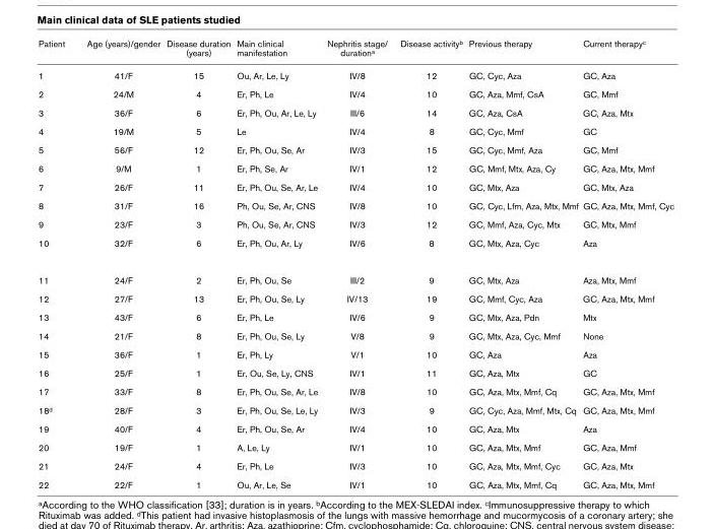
<table><thead><tr><td>Patient</td><td>Age (years)/gender</td><td>Disease duration (years)</td><td>Main clinical manifestation</td><td>Nephritis stage/ durationa</td><td>Disease activityb</td><td>Previous therapy</td><td>Current therapyc</td></tr></thead><tbody><tr><td>1</td><td>41/F</td><td>15</td><td>Ou, Ar, Le, Ly</td><td>IV/8</td><td>12</td><td>GC, Cyc, Aza</td><td>GC, Aza</td></tr><tr><td>2</td><td>24/M</td><td>4</td><td>Er, Ph, Le</td><td>IV/4</td><td>10</td><td>GC, Aza, Mmf, CsA</td><td>GC, Mmf</td></tr><tr><td>3</td><td>36/F</td><td>6</td><td>Er, Ph, Ou, Ar, Le, Ly</td><td>III/6</td><td>14</td><td>GC, Aza, CsA</td><td>GC, Aza, Mtx</td></tr><tr><td>4</td><td>19/M</td><td>5</td><td>Le</td><td>IV/4</td><td>8</td><td>GC, Cyc, Mmf</td><td>GC</td></tr><tr><td>5</td><td>56/F</td><td>12</td><td>Er, Ph, Ou, Se, Ar</td><td>IV/3</td><td>15</td><td>GC, Cyc, Mmf, Aza</td><td>GC, Mmf</td></tr><tr><td>6</td><td>9/M</td><td>1</td><td>Er, Ph, Se, Ar</td><td>IV/1</td><td>12</td><td>GC, Mmf, Mtx, Aza, Cy</td><td>GC, Aza, Mtx, Mmf</td></tr><tr><td>7</td><td>26/F</td><td>11</td><td>Er, Ph, Ou, Se, Ar, Le</td><td>IV/4</td><td>10</td><td>GC, Mtx, Aza</td><td>GC, Mtx, Aza</td></tr><tr><td>8</td><td>31/F</td><td>16</td><td>Ph, Ou, Se, Ar, CNS</td><td>IV/8</td><td>10</td><td>GC, Cyc, Lfm, Aza, Mtx, Mmf</td><td>GC, Aza, Mtx, Mmf, Cyc</td></tr><tr><td>9</td><td>23/F</td><td>3</td><td>Ph, Ou, Se, Ar, CNS</td><td>IV/3</td><td>12</td><td>GC, Mmf, Aza, Cyc, Mtx</td><td>GC, Mtx, Mmf</td></tr><tr><td>10</td><td>32/F</td><td>6</td><td>Er, Ph, Ou, Ar, Ly</td><td>IV/6</td><td>8</td><td>GC, Mtx, Aza, Cyc</td><td>Aza</td></tr><tr><td>11</td><td>24/F</td><td>2</td><td>Er, Ph, Ou, Se</td><td>III/2</td><td>9</td><td>GC, Mtx, Aza</td><td>Aza, Mtx, Mmf</td></tr><tr><td>12</td><td>27/F</td><td>13</td><td>Er, Ph, Ou, Se, Ly</td><td>IV/13</td><td>19</td><td>GC, Mmf, Cyc, Aza</td><td>GC, Aza, Mtx, Mmf</td></tr><tr><td>13</td><td>43/F</td><td>6</td><td>Er, Ph, Le</td><td>IV/6</td><td>9</td><td>GC, Mtx, Aza, Pdn</td><td>Mtx</td></tr><tr><td>14</td><td>21/F</td><td>8</td><td>Er, Ph, Ou, Se, Ly</td><td>V/8</td><td>9</td><td>GC, Mtx, Aza, Cyc, Mmf</td><td>None</td></tr><tr><td>15</td><td>36/F</td><td>1</td><td>Er, Ph, Ly</td><td>V/1</td><td>10</td><td>GC, Aza</td><td>Aza</td></tr><tr><td>16</td><td>25/F</td><td>1</td><td>Er, Ou, Se, Ly, CNS</td><td>IV/1</td><td>11</td><td>GC, Aza, Mtx</td><td>GC</td></tr><tr><td>17</td><td>33/F</td><td>8</td><td>Er, Ph, Ou, Se, Ar, Le</td><td>IV/8</td><td>10</td><td>GC, Aza, Mtx, Mmf, Cq</td><td>GC, Aza, Mtx, Mmf</td></tr><tr><td>18d</td><td>28/F</td><td>3</td><td>Er, Ph, Ou, Se, Le, Ly</td><td>IV/3</td><td>9</td><td>GC, Cyc, Aza, Mmf, Mtx, Cq</td><td>GC, Aza, Mtx, Mmf</td></tr><tr><td>19</td><td>40/F</td><td>4</td><td>Er, Ph, Ou, Se, Ar</td><td>IV/4</td><td>10</td><td>GC, Aza, Mtx</td><td>Aza</td></tr><tr><td>20</td><td>19/F</td><td>1</td><td>A, Le, Ly</td><td>IV/1</td><td>10</td><td>GC, Aza, Mtx, Mmf</td><td>GC, Aza, Mmf</td></tr><tr><td>21</td><td>24/F</td><td>4</td><td>Er, Ph, Le</td><td>IV/3</td><td>10</td><td>GC, Aza, Mtx, Mmf, Cyc</td><td>GC, Aza, Mtx</td></tr><tr><td>22</td><td>22/F</td><td>1</td><td>Ou, Ar, Le, Se</td><td>IV/1</td><td>10</td><td>GC, Aza, Mtx, Mmf, Cq</td><td>GC, Aza, Mtx, Mmf</td></tr></tbody></table>